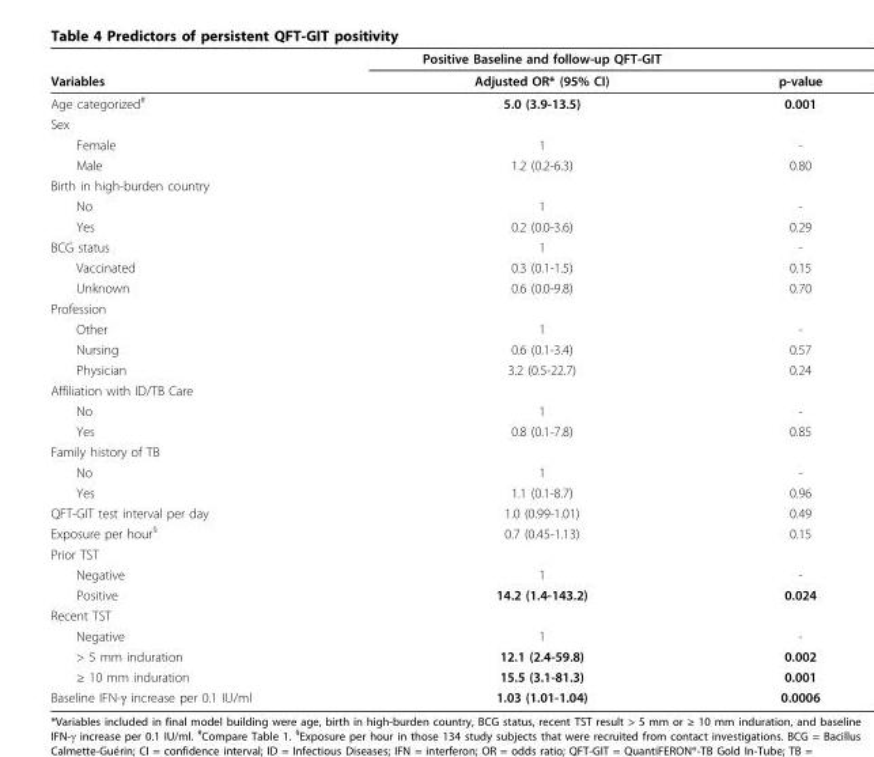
<table><thead><tr><td rowspan="2">Variables</td><td rowspan="2">Positive Baseline and follow-up QFT-GIT Adjusted OR* (95% CI)</td><td rowspan="2">p-value</td></tr><tr></tr></thead><tbody><tr><td>Age categorized<sup>#</sup></td><td>5.0 (3.9-13.5)</td><td>0.001</td></tr><tr><td colspan="3">Sex</td></tr><tr><td>Female</td><td>1</td><td>-</td></tr><tr><td>Male</td><td>1.2 (0.2-6.3)</td><td>0.80</td></tr><tr><td colspan="3">Birth in high-burden country</td></tr><tr><td>No</td><td>1</td><td>-</td></tr><tr><td>Yes</td><td>0.2 (0.0-3.6)</td><td>0.29</td></tr><tr><td>BCG status</td><td>1</td><td>-</td></tr><tr><td>Vaccinated</td><td>0.3 (0.1-1.5)</td><td>0.15</td></tr><tr><td>Unknown</td><td>0.6 (0.0-9.8)</td><td>0.70</td></tr><tr><td colspan="3">Profession</td></tr><tr><td>Other</td><td>1</td><td>-</td></tr><tr><td>Nursing</td><td>0.6 (0.1-3.4)</td><td>0.57</td></tr><tr><td>Physician</td><td>3.2 (0.5-22.7)</td><td>0.24</td></tr><tr><td colspan="3">Affiliation with ID/TB Care</td></tr><tr><td>No</td><td>1</td><td>-</td></tr><tr><td>Yes</td><td>0.8 (0.1-7.8)</td><td>0.85</td></tr><tr><td colspan="3">Family history of TB</td></tr><tr><td>No</td><td>1</td><td>-</td></tr><tr><td>Yes</td><td>1.1 (0.1-8.7)</td><td>0.96</td></tr><tr><td>QFT-GIT test interval per day</td><td>1.0 (0.99-1.01)</td><td>0.49</td></tr><tr><td>Exposure per hour<sup>§</sup></td><td>0.7 (0.45-1.13)</td><td>0.15</td></tr><tr><td colspan="3">Prior TST</td></tr><tr><td>Negative</td><td>1</td><td>-</td></tr><tr><td>Positive</td><td>14.2 (1.4-143.2)</td><td>0.024</td></tr><tr><td colspan="3">Recent TST</td></tr><tr><td>Negative</td><td>1</td><td>-</td></tr><tr><td>&gt; 5 mm induration</td><td>12.1 (2.4-59.8)</td><td>0.002</td></tr><tr><td>≥ 10 mm induration</td><td>15.5 (3.1-81.3)</td><td>0.001</td></tr><tr><td>Baseline IFN-γ increase per 0.1 IU/ml</td><td>1.03 (1.01-1.04)</td><td>0.0006</td></tr></tbody></table>